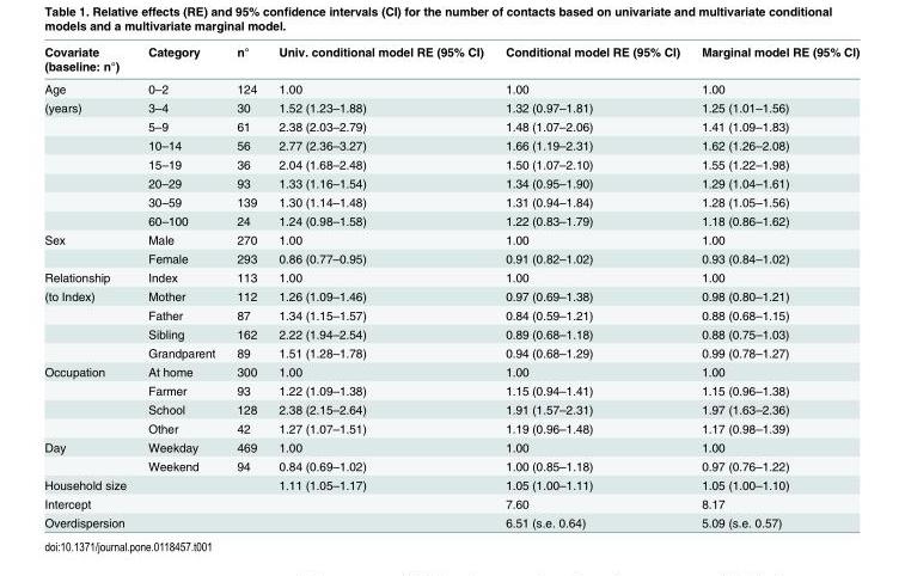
<table><thead><tr><td>Covariate (baseline: n°)</td><td>Category</td><td>n°</td><td>Univ. conditional model RE (95% CI)</td><td>Conditional model RE (95% CI)</td><td>Marginal model RE (95% CI)</td></tr></thead><tbody><tr><td>Age</td><td>0–2</td><td>124</td><td>1.00</td><td>1.00</td><td>1.00</td></tr><tr><td rowspan="7">(years)</td><td>3–4</td><td>30</td><td>1.52 (1.23–1.88)</td><td>1.32 (0.97–1.81)</td><td>1.25 (1.01–1.56)</td></tr><tr><td>5–9</td><td>61</td><td>2.38 (2.03–2.79)</td><td>1.48 (1.07–2.06)</td><td>1.41 (1.09–1.83)</td></tr><tr><td>10–14</td><td>56</td><td>2.77 (2.36–3.27)</td><td>1.66 (1.19–2.31)</td><td>1.62 (1.26–2.08)</td></tr><tr><td>15–19</td><td>36</td><td>2.04 (1.68–2.48)</td><td>1.50 (1.07–2.10)</td><td>1.55 (1.22–1.98)</td></tr><tr><td>20–29</td><td>93</td><td>1.33 (1.16–1.54)</td><td>1.34 (0.95–1.90)</td><td>1.29 (1.04–1.61)</td></tr><tr><td>30–59</td><td>139</td><td>1.30 (1.14–1.48)</td><td>1.31 (0.94–1.84)</td><td>1.28 (1.05–1.56)</td></tr><tr><td>60–100</td><td>24</td><td>1.24 (0.98–1.58)</td><td>1.22 (0.83–1.79)</td><td>1.18 (0.86–1.62)</td></tr><tr><td rowspan="2">Sex</td><td>Male</td><td>270</td><td>1.00</td><td>1.00</td><td>1.00</td></tr><tr><td>Female</td><td>293</td><td>0.86 (0.77–0.95)</td><td>0.91 (0.82–1.02)</td><td>0.93 (0.84–1.02)</td></tr><tr><td>Relationship</td><td>Index</td><td>113</td><td>1.00</td><td>1.00</td><td>1.00</td></tr><tr><td rowspan="4">(to Index)</td><td>Mother</td><td>112</td><td>1.26 (1.09–1.46)</td><td>0.97 (0.69–1.38)</td><td>0.98 (0.80–1.21)</td></tr><tr><td>Father</td><td>87</td><td>1.34 (1.15–1.57)</td><td>0.84 (0.59–1.21)</td><td>0.88 (0.68–1.15)</td></tr><tr><td>Sibling</td><td>162</td><td>2.22 (1.94–2.54)</td><td>0.89 (0.68–1.18)</td><td>0.88 (0.75–1.03)</td></tr><tr><td>Grandparent</td><td>89</td><td>1.51 (1.28–1.78)</td><td>0.94 (0.68–1.29)</td><td>0.99 (0.78–1.27)</td></tr><tr><td rowspan="4">Occupation</td><td>At home</td><td>300</td><td>1.00</td><td>1.00</td><td>1.00</td></tr><tr><td>Farmer</td><td>93</td><td>1.22 (1.09–1.38)</td><td>1.15 (0.94–1.41)</td><td>1.15 (0.96–1.38)</td></tr><tr><td>School</td><td>128</td><td>2.38 (2.15–2.64)</td><td>1.91 (1.57–2.31)</td><td>1.97 (1.63–2.36)</td></tr><tr><td>Other</td><td>42</td><td>1.27 (1.07–1.51)</td><td>1.19 (0.96–1.48)</td><td>1.17 (0.98–1.39)</td></tr><tr><td rowspan="2">Day</td><td>Weekday</td><td>469</td><td>1.00</td><td>1.00</td><td>1.00</td></tr><tr><td>Weekend</td><td>94</td><td>0.84 (0.69–1.02)</td><td>1.00 (0.85–1.18)</td><td>0.97 (0.76–1.22)</td></tr><tr><td>Household size</td><td></td><td></td><td>1.11 (1.05–1.17)</td><td>1.05 (1.00–1.11)</td><td>1.05 (1.00–1.10)</td></tr><tr><td>Intercept</td><td></td><td></td><td></td><td>7.60</td><td>8.17</td></tr><tr><td>Overdispersion</td><td></td><td></td><td></td><td>6.51 (s.e. 0.64)</td><td>5.09 (s.e. 0.57)</td></tr></tbody></table>